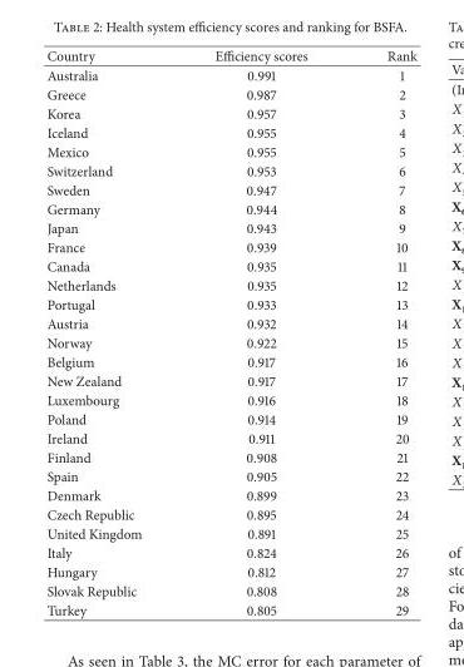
<table><thead><tr><td>Country</td><td>Efficiency scores</td><td>Rank</td></tr></thead><tbody><tr><td>Australia</td><td>0.991</td><td>1</td></tr><tr><td>Greece</td><td>0.987</td><td>2</td></tr><tr><td>Korea</td><td>0.957</td><td>3</td></tr><tr><td>Iceland</td><td>0.955</td><td>4</td></tr><tr><td>Mexico</td><td>0.955</td><td>5</td></tr><tr><td>Switzerland</td><td>0.953</td><td>6</td></tr><tr><td>Sweden</td><td>0.947</td><td>7</td></tr><tr><td>Germany</td><td>0.944</td><td>8</td></tr><tr><td>Japan</td><td>0.943</td><td>9</td></tr><tr><td>France</td><td>0.939</td><td>10</td></tr><tr><td>Canada</td><td>0.935</td><td>11</td></tr><tr><td>Netherlands</td><td>0.935</td><td>12</td></tr><tr><td>Portugal</td><td>0.933</td><td>13</td></tr><tr><td>Austria</td><td>0.932</td><td>14</td></tr><tr><td>Norway</td><td>0.922</td><td>15</td></tr><tr><td>Belgium</td><td>0.917</td><td>16</td></tr><tr><td>New Zealand</td><td>0.917</td><td>17</td></tr><tr><td>Luxembourg</td><td>0.916</td><td>18</td></tr><tr><td>Poland</td><td>0.914</td><td>19</td></tr><tr><td>Ireland</td><td>0.911</td><td>20</td></tr><tr><td>Finland</td><td>0.908</td><td>21</td></tr><tr><td>Spain</td><td>0.905</td><td>22</td></tr><tr><td>Denmark</td><td>0.899</td><td>23</td></tr><tr><td>Czech Republic</td><td>0.895</td><td>24</td></tr><tr><td>United Kingdom</td><td>0.891</td><td>25</td></tr><tr><td>Italy</td><td>0.824</td><td>26</td></tr><tr><td>Hungary</td><td>0.812</td><td>27</td></tr><tr><td>Slovak Republic</td><td>0.808</td><td>28</td></tr><tr><td>Turkey</td><td>0.805</td><td>29</td></tr></tbody></table>